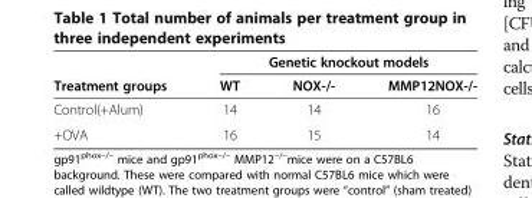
<table><thead><tr><td rowspan="2">Treatment groups</td><td colspan="3">Genetic knockout models</td></tr><tr><td>WT</td><td>NOX-/-</td><td>MMP12NOX-/-</td></tr></thead><tbody><tr><td>Control(+Alum)</td><td>14</td><td>14</td><td>16</td></tr><tr><td>+OVA</td><td>16</td><td>15</td><td>14</td></tr></tbody></table>